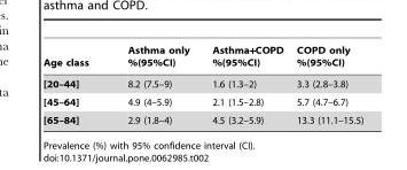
<table><thead><tr><td>Age class</td><td>Asthma only %(95%CI)</td><td>Asthma+COPD %(95%CI)</td><td>COPD only %(95%CI)</td></tr></thead><tbody><tr><td>[20–44]</td><td>8.2 (7.5–9)</td><td>1.6 (1.3–2)</td><td>3.3 (2.8–3.8)</td></tr><tr><td>[45–64]</td><td>4.9 (4–5.9)</td><td>2.1 (1.5–2.8)</td><td>5.7 (4.7–6.7)</td></tr><tr><td>[65–84]</td><td>2.9 (1.8–4)</td><td>4.5 (3.2–5.9)</td><td>13.3 (11.1–15.5)</td></tr></tbody></table>